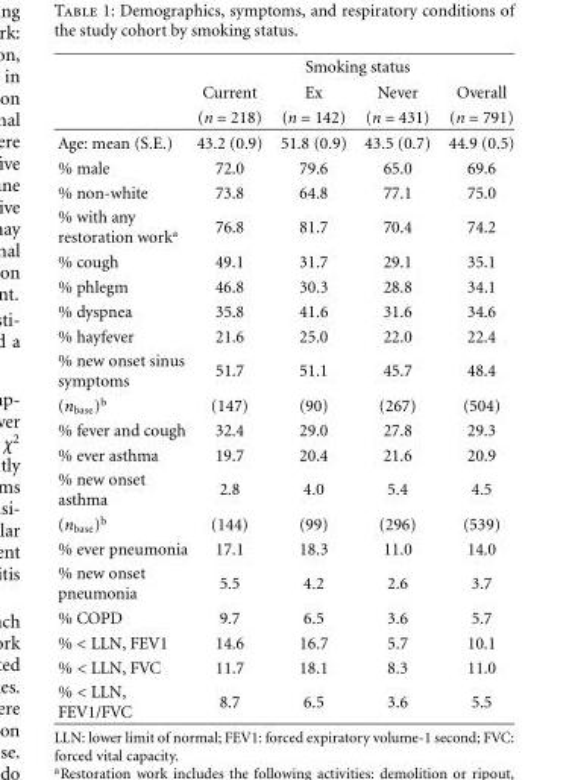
<table><thead><tr><td rowspan="3"></td><td colspan="4">Smoking status</td></tr><tr><td rowspan="2">Current (n = 218)</td><td rowspan="2">Ex (n = 142)</td><td rowspan="2">Never (n = 431)</td><td rowspan="2">Overall (n = 791)</td></tr><tr></tr></thead><tbody><tr><td>Age: mean (S.E.)</td><td>43.2 (0.9)</td><td>51.8 (0.9)</td><td>43.5 (0.7)</td><td>44.9 (0.5)</td></tr><tr><td>% male</td><td>72.0</td><td>79.6</td><td>65.0</td><td>69.6</td></tr><tr><td>% non-white</td><td>73.8</td><td>64.8</td><td>77.1</td><td>75.0</td></tr><tr><td>% with any restoration work<sup>a</sup></td><td>76.8</td><td>81.7</td><td>70.4</td><td>74.2</td></tr><tr><td>% cough</td><td>49.1</td><td>31.7</td><td>29.1</td><td>35.1</td></tr><tr><td>% phlegm</td><td>46.8</td><td>30.3</td><td>28.8</td><td>34.1</td></tr><tr><td>% dyspnea</td><td>35.8</td><td>41.6</td><td>31.6</td><td>34.6</td></tr><tr><td>% hayfever</td><td>21.6</td><td>25.0</td><td>22.0</td><td>22.4</td></tr><tr><td>% new onset sinus symptoms</td><td>51.7</td><td>51.1</td><td>45.7</td><td>48.4</td></tr><tr><td>(n<sub>base</sub>)<sup>b</sup></td><td>(147)</td><td>(90)</td><td>(267)</td><td>(504)</td></tr><tr><td>% fever and cough</td><td>32.4</td><td>29.0</td><td>27.8</td><td>29.3</td></tr><tr><td>% ever asthma</td><td>19.7</td><td>20.4</td><td>21.6</td><td>20.9</td></tr><tr><td>% new onset asthma</td><td>2.8</td><td>4.0</td><td>5.4</td><td>4.5</td></tr><tr><td>(n<sub>base</sub>)<sup>b</sup></td><td>(144)</td><td>(99)</td><td>(296)</td><td>(539)</td></tr><tr><td>% ever pneumonia</td><td>17.1</td><td>18.3</td><td>11.0</td><td>14.0</td></tr><tr><td>% new onset pneumonia</td><td>5.5</td><td>4.2</td><td>2.6</td><td>3.7</td></tr><tr><td>% COPD</td><td>9.7</td><td>6.5</td><td>3.6</td><td>5.7</td></tr><tr><td>% &lt; LLN, FEV1</td><td>14.6</td><td>16.7</td><td>5.7</td><td>10.1</td></tr><tr><td>% &lt; LLN, FVC</td><td>11.7</td><td>18.1</td><td>8.3</td><td>11.0</td></tr><tr><td>% &lt; LLN, FEV1/FVC</td><td>8.7</td><td>6.5</td><td>3.6</td><td>5.5</td></tr></tbody></table>